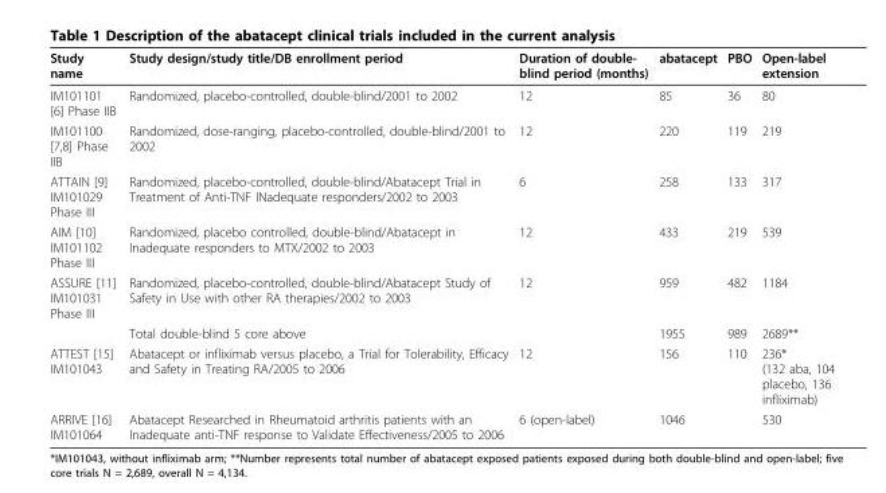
<table><thead><tr><td>Study name</td><td>Study design/study title/DB enrollment period</td><td>Duration of double- blind period (months)</td><td>abatacept</td><td>PBO</td><td>Open-label extension</td></tr></thead><tbody><tr><td>IM101101 [6] Phase IIB</td><td>Randomized, placebo-controlled, double-blind/2001 to 2002</td><td>12</td><td>85</td><td>36</td><td>80</td></tr><tr><td>IM101100 [7,8] Phase IIB</td><td>Randomized, dose-ranging, placebo-controlled, double-blind/2001 to 2002</td><td>12</td><td>220</td><td>119</td><td>219</td></tr><tr><td>ATTAIN [9] IM101029 Phase III</td><td>Randomized, placebo-controlled, double-blind/Abatacept Trial in Treatment of Anti-TNF INadequate responders/2002 to 2003</td><td>6</td><td>258</td><td>133</td><td>317</td></tr><tr><td>AIM [10] IM101102 Phase III</td><td>Randomized, placebo controlled, double-blind/Abatacept in Inadequate responders to MTX/2002 to 2003</td><td>12</td><td>433</td><td>219</td><td>539</td></tr><tr><td rowspan="2">ASSURE [11] IM101031 Phase III</td><td>Randomized, placebo-controlled, double-blind/Abatacept Study of Safety in Use with other RA therapies/2002 to 2003</td><td>12</td><td>959</td><td>482</td><td>1184</td></tr><tr><td>Total double-blind 5 core above</td><td></td><td>1955</td><td>989</td><td>2689**</td></tr><tr><td>ATTEST [15] IM101043</td><td>Abatacept or infliximab versus placebo, a Trial for Tolerability, Efficacy and Safety in Treating RA/2005 to 2006</td><td>12</td><td>156</td><td>110</td><td>236* (132 aba, 104 placebo, 136 infliximab)</td></tr><tr><td>ARRIVE [16] IM101064</td><td>Abatacept Researched in Rheumatoid arthritis patients with an Inadequate anti-TNF response to Validate Effectiveness/2005 to 2006</td><td>6 (open-label)</td><td>1046</td><td></td><td>530</td></tr></tbody></table>